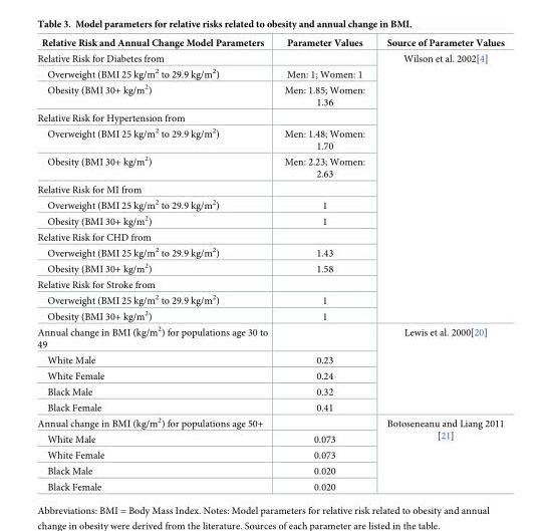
<table><thead><tr><td>Relative Risk and Annual Change Model Parameters</td><td>Parameter Values</td><td>Source of Parameter Values</td></tr></thead><tbody><tr><td colspan="2">Relative Risk for Diabetes from</td><td rowspan="15">Wilson et al. 2002[4]</td></tr><tr><td>Overweight (BMI 25 kg/m<sup>2</sup> to 29.9 kg/m<sup>2</sup>)</td><td>Men: 1; Women: 1</td></tr><tr><td>Obesity (BMI 30+ kg/m<sup>2</sup>)</td><td>Men: 1.85; Women: 1.36</td></tr><tr><td colspan="2">Relative Risk for Hypertension from</td></tr><tr><td>Overweight (BMI 25 kg/m<sup>2</sup> to 29.9 kg/m<sup>2</sup>)</td><td>Men: 1.48; Women: 1.70</td></tr><tr><td>Obesity (BMI 30+ kg/m<sup>2</sup>)</td><td>Men: 2.23; Women: 2.63</td></tr><tr><td colspan="2">Relative Risk for MI from</td></tr><tr><td>Overweight (BMI 25 kg/m<sup>2</sup> to 29.9 kg/m<sup>2</sup>)</td><td>1</td></tr><tr><td>Obesity (BMI 30+ kg/m<sup>2</sup>)</td><td>1</td></tr><tr><td colspan="2">Relative Risk for CHD from</td></tr><tr><td>Overweight (BMI 25 kg/m<sup>2</sup> to 29.9 kg/m<sup>2</sup>)</td><td>1.43</td></tr><tr><td>Obesity (BMI 30+ kg/m<sup>2</sup>)</td><td>1.58</td></tr><tr><td colspan="2">Relative Risk for Stroke from</td></tr><tr><td>Overweight (BMI 25 kg/m<sup>2</sup> to 29.9 kg/m<sup>2</sup>)</td><td>1</td></tr><tr><td>Obesity (BMI 30+ kg/m<sup>2</sup>)</td><td>1</td></tr><tr><td colspan="2">Annual change in BMI (kg/m<sup>2</sup>) for populations age 30 to 49</td><td rowspan="5">Lewis et al. 2000[20]</td></tr><tr><td>White Male</td><td>0.23</td></tr><tr><td>White Female</td><td>0.24</td></tr><tr><td>Black Male</td><td>0.32</td></tr><tr><td>Black Female</td><td>0.41</td></tr><tr><td colspan="2">Annual change in BMI (kg/m<sup>2</sup>) for populations age 50+</td><td rowspan="5">Botoseneanu and Liang 2011 [21]</td></tr><tr><td>White Male</td><td>0.073</td></tr><tr><td>White Female</td><td>0.073</td></tr><tr><td>Black Male</td><td>0.020</td></tr><tr><td>Black Female</td><td>0.020</td></tr></tbody></table>